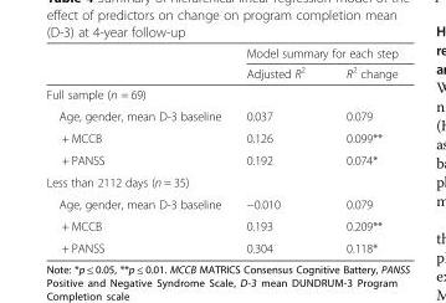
<table><thead><tr><td rowspan="2"></td><td colspan="2">Model summary for each step</td></tr><tr><td>Adjusted R<sup>2</sup></td><td>R<sup>2</sup> change</td></tr></thead><tbody><tr><td colspan="3">Full sample (n = 69)</td></tr><tr><td>Age, gender, mean D-3 baseline</td><td>0.037</td><td>0.079</td></tr><tr><td>+ MCCB</td><td>0.126</td><td>0.099**</td></tr><tr><td>+ PANSS</td><td>0.192</td><td>0.074*</td></tr><tr><td colspan="3">Less than 2112 days (n = 35)</td></tr><tr><td>Age, gender, mean D-3 baseline</td><td>−0.010</td><td>0.079</td></tr><tr><td>+ MCCB</td><td>0.193</td><td>0.209**</td></tr><tr><td>+ PANSS</td><td>0.304</td><td>0.118*</td></tr></tbody></table>